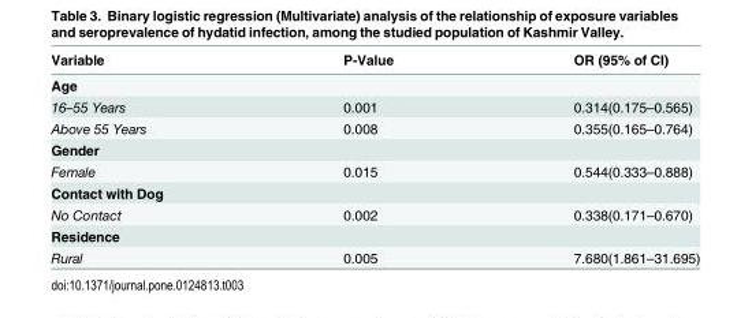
<table><thead><tr><td>Variable</td><td>P-Value</td><td>OR (95% of CI)</td></tr></thead><tbody><tr><td colspan="3">Age</td></tr><tr><td>16–55 Years</td><td>0.001</td><td>0.314(0.175–0.565)</td></tr><tr><td>Above 55 Years</td><td>0.008</td><td>0.355(0.165–0.764)</td></tr><tr><td colspan="3">Gender</td></tr><tr><td>Female</td><td>0.015</td><td>0.544(0.333–0.888)</td></tr><tr><td colspan="3">Contact with Dog</td></tr><tr><td>No Contact</td><td>0.002</td><td>0.338(0.171–0.670)</td></tr><tr><td colspan="3">Residence</td></tr><tr><td>Rural</td><td>0.005</td><td>7.680(1.861–31.695)</td></tr></tbody></table>